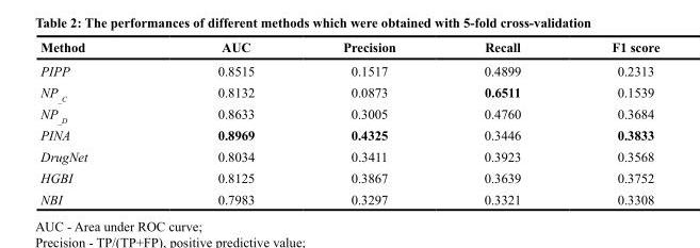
<table><thead><tr><td>Method</td><td>AUC</td><td>Precision</td><td>Recall</td><td>F1 score</td></tr></thead><tbody><tr><td>PIPP</td><td>0.8515</td><td>0.1517</td><td>0.4899</td><td>0.2313</td></tr><tr><td>NP<sub>_C</sub></td><td>0.8132</td><td>0.0873</td><td>0.6511</td><td>0.1539</td></tr><tr><td>NP<sub>_D</sub></td><td>0.8633</td><td>0.3005</td><td>0.4760</td><td>0.3684</td></tr><tr><td>PINA</td><td>0.8969</td><td>0.4325</td><td>0.3446</td><td>0.3833</td></tr><tr><td>DrugNet</td><td>0.8034</td><td>0.3411</td><td>0.3923</td><td>0.3568</td></tr><tr><td>HGBI</td><td>0.8125</td><td>0.3867</td><td>0.3639</td><td>0.3752</td></tr><tr><td>NBI</td><td>0.7983</td><td>0.3297</td><td>0.3321</td><td>0.3308</td></tr></tbody></table>